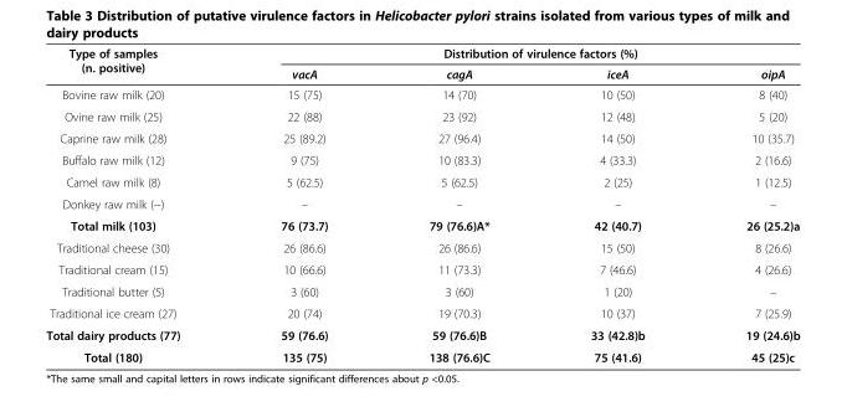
<table><thead><tr><td rowspan="2">Type of samples (n. positive)</td><td colspan="4">Distribution of virulence factors (%)</td></tr><tr><td>vacA</td><td>cagA</td><td>iceA</td><td>oipA</td></tr></thead><tbody><tr><td>Bovine raw milk (20)</td><td>15 (75)</td><td>14 (70)</td><td>10 (50)</td><td>8 (40)</td></tr><tr><td>Ovine raw milk (25)</td><td>22 (88)</td><td>23 (92)</td><td>12 (48)</td><td>5 (20)</td></tr><tr><td>Caprine raw milk (28)</td><td>25 (89.2)</td><td>27 (96.4)</td><td>14 (50)</td><td>10 (35.7)</td></tr><tr><td>Buffalo raw milk (12)</td><td>9 (75)</td><td>10 (83.3)</td><td>4 (33.3)</td><td>2 (16.6)</td></tr><tr><td>Camel raw milk (8)</td><td>5 (62.5)</td><td>5 (62.5)</td><td>2 (25)</td><td>1 (12.5)</td></tr><tr><td>Donkey raw milk (−)</td><td>–</td><td>–</td><td>–</td><td>–</td></tr><tr><td>Total milk (103)</td><td>76 (73.7)</td><td>79 (76.6)A*</td><td>42 (40.7)</td><td>26 (25.2)a</td></tr><tr><td>Traditional cheese (30)</td><td>26 (86.6)</td><td>26 (86.6)</td><td>15 (50)</td><td>8 (26.6)</td></tr><tr><td>Traditional cream (15)</td><td>10 (66.6)</td><td>11 (73.3)</td><td>7 (46.6)</td><td>4 (26.6)</td></tr><tr><td>Traditional butter (5)</td><td>3 (60)</td><td>3 (60)</td><td>1 (20)</td><td>–</td></tr><tr><td>Traditional ice cream (27)</td><td>20 (74)</td><td>19 (70.3)</td><td>10 (37)</td><td>7 (25.9)</td></tr><tr><td>Total dairy products (77)</td><td>59 (76.6)</td><td>59 (76.6)B</td><td>33 (42.8)b</td><td>19 (24.6)b</td></tr><tr><td>Total (180)</td><td>135 (75)</td><td>138 (76.6)C</td><td>75 (41.6)</td><td>45 (25)c</td></tr></tbody></table>